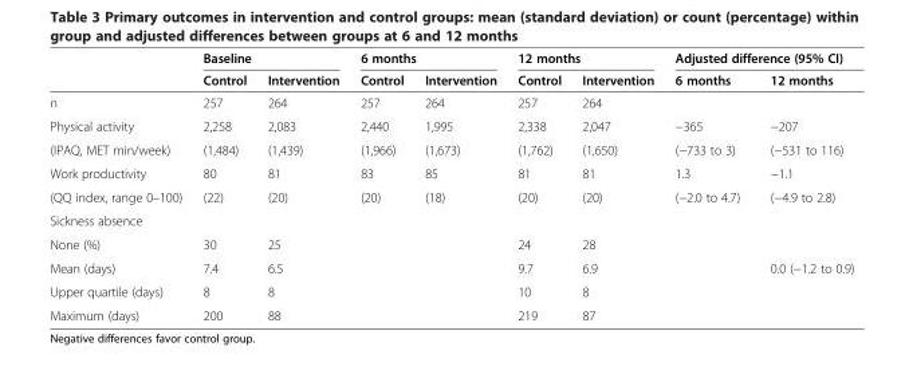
<table><thead><tr><td rowspan="2"></td><td colspan="2">Baseline</td><td colspan="2">6 months</td><td colspan="2">12 months</td><td colspan="2">Adjusted difference (95% CI)</td></tr><tr><td>Control</td><td>Intervention</td><td>Control</td><td>Intervention</td><td>Control</td><td>Intervention</td><td>6 months</td><td>12 months</td></tr></thead><tbody><tr><td>n</td><td>257</td><td>264</td><td>257</td><td>264</td><td>257</td><td>264</td><td></td><td></td></tr><tr><td>Physical activity</td><td>2,258</td><td>2,083</td><td>2,440</td><td>1,995</td><td>2,338</td><td>2,047</td><td>−365</td><td>−207</td></tr><tr><td>(IPAQ, MET min/week)</td><td>(1,484)</td><td>(1,439)</td><td>(1,966)</td><td>(1,673)</td><td>(1,762)</td><td>(1,650)</td><td>(−733 to 3)</td><td>(−531 to 116)</td></tr><tr><td>Work productivity</td><td>80</td><td>81</td><td>83</td><td>85</td><td>81</td><td>81</td><td>1.3</td><td>−1.1</td></tr><tr><td>(QQ index, range 0–100)</td><td>(22)</td><td>(20)</td><td>(20)</td><td>(18)</td><td>(20)</td><td>(20)</td><td>(−2.0 to 4.7)</td><td>(−4.9 to 2.8)</td></tr><tr><td colspan="9">Sickness absence</td></tr><tr><td>None (%)</td><td>30</td><td>25</td><td></td><td></td><td>24</td><td>28</td><td></td><td></td></tr><tr><td>Mean (days)</td><td>7.4</td><td>6.5</td><td></td><td></td><td>9.7</td><td>6.9</td><td></td><td>0.0 (−1.2 to 0.9)</td></tr><tr><td>Upper quartile (days)</td><td>8</td><td>8</td><td></td><td></td><td>10</td><td>8</td><td></td><td></td></tr><tr><td>Maximum (days)</td><td>200</td><td>88</td><td></td><td></td><td>219</td><td>87</td><td></td><td></td></tr></tbody></table>